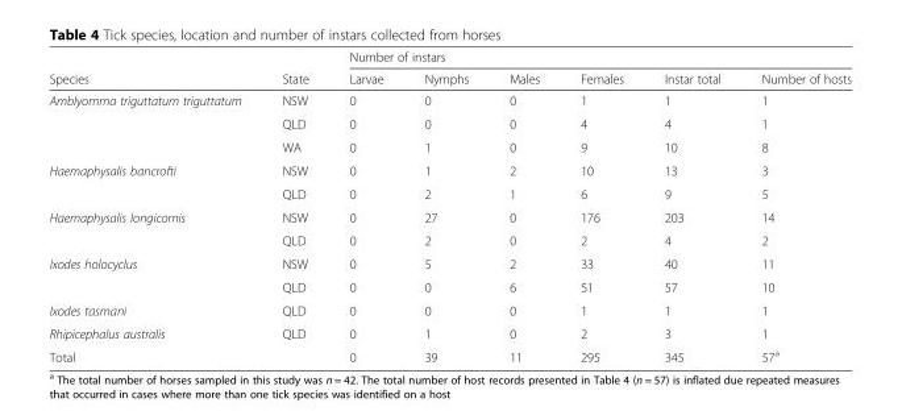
<table><thead><tr><td rowspan="2">Species</td><td rowspan="2">State</td><td colspan="6">Number of instars</td></tr><tr><td>Larvae</td><td>Nymphs</td><td>Males</td><td>Females</td><td>Instar total</td><td>Number of hosts</td></tr></thead><tbody><tr><td rowspan="3">Amblyomma triguttatum triguttatum</td><td>NSW</td><td>0</td><td>0</td><td>0</td><td>1</td><td>1</td><td>1</td></tr><tr><td>QLD</td><td>0</td><td>0</td><td>0</td><td>4</td><td>4</td><td>1</td></tr><tr><td>WA</td><td>0</td><td>1</td><td>0</td><td>9</td><td>10</td><td>8</td></tr><tr><td rowspan="2">Haemaphysalis bancrofti</td><td>NSW</td><td>0</td><td>1</td><td>2</td><td>10</td><td>13</td><td>3</td></tr><tr><td>QLD</td><td>0</td><td>2</td><td>1</td><td>6</td><td>9</td><td>5</td></tr><tr><td rowspan="2">Haemaphysalis longicornis</td><td>NSW</td><td>0</td><td>27</td><td>0</td><td>176</td><td>203</td><td>14</td></tr><tr><td>QLD</td><td>0</td><td>2</td><td>0</td><td>2</td><td>4</td><td>2</td></tr><tr><td rowspan="2">Ixodes holocyclus</td><td>NSW</td><td>0</td><td>5</td><td>2</td><td>33</td><td>40</td><td>11</td></tr><tr><td>QLD</td><td>0</td><td>0</td><td>6</td><td>51</td><td>57</td><td>10</td></tr><tr><td>Ixodes tasmani</td><td>QLD</td><td>0</td><td>0</td><td>0</td><td>1</td><td>1</td><td>1</td></tr><tr><td>Rhipicephalus australis</td><td>QLD</td><td>0</td><td>1</td><td>0</td><td>2</td><td>3</td><td>1</td></tr><tr><td>Total</td><td></td><td>0</td><td>39</td><td>11</td><td>295</td><td>345</td><td>57<sup>a</sup></td></tr></tbody></table>